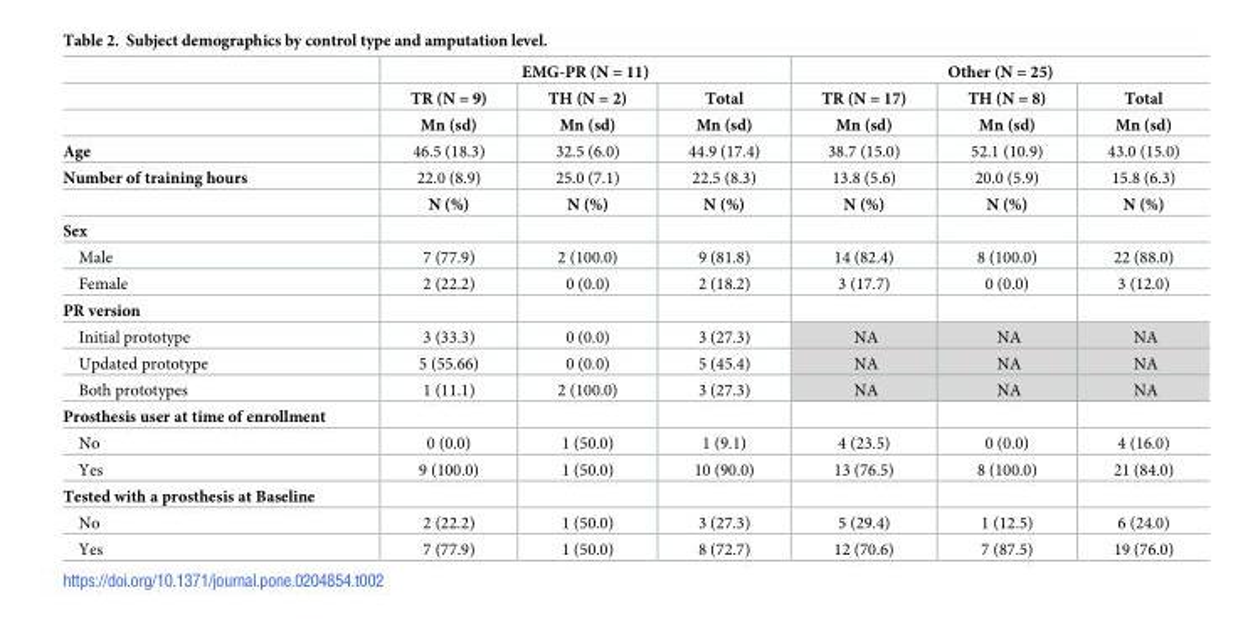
<table><thead><tr><td rowspan="3"></td><td colspan="3">EMG-PR (N = 11)</td><td colspan="3">Other (N = 25)</td></tr><tr><td rowspan="2">TR (N = 9) Mn (sd)</td><td rowspan="2">TH (N = 2) Mn (sd)</td><td rowspan="2">Total Mn (sd)</td><td rowspan="2">TR (N = 17) Mn (sd)</td><td rowspan="2">TH (N = 8) Mn (sd)</td><td rowspan="2">Total Mn (sd)</td></tr><tr></tr></thead><tbody><tr><td>Age</td><td>46.5 (18.3)</td><td>32.5 (6.0)</td><td>44.9 (17.4)</td><td>38.7 (15.0)</td><td>52.1 (10.9)</td><td>43.0 (15.0)</td></tr><tr><td rowspan="2">Number of training hours</td><td>22.0 (8.9)</td><td>25.0 (7.1)</td><td>22.5 (8.3)</td><td>13.8 (5.6)</td><td>20.0 (5.9)</td><td>15.8 (6.3)</td></tr><tr><td>N (%)</td><td>N (%)</td><td>N (%)</td><td>N (%)</td><td>N (%)</td><td>N (%)</td></tr><tr><td colspan="7">Sex</td></tr><tr><td>Male</td><td>7 (77.9)</td><td>2 (100.0)</td><td>9 (81.8)</td><td>14 (82.4)</td><td>8 (100.0)</td><td>22 (88.0)</td></tr><tr><td>Female</td><td>2 (22.2)</td><td>0 (0.0)</td><td>2 (18.2)</td><td>3 (17.7)</td><td>0 (0.0)</td><td>3 (12.0)</td></tr><tr><td colspan="7">PR version</td></tr><tr><td>Initial prototype</td><td>3 (33.3)</td><td>0 (0.0)</td><td>3 (27.3)</td><td>NA</td><td>NA</td><td>NA</td></tr><tr><td>Updated prototype</td><td>5 (55.66)</td><td>0 (0.0)</td><td>5 (45.4)</td><td>NA</td><td>NA</td><td>NA</td></tr><tr><td>Both prototypes</td><td>1 (11.1)</td><td>2 (100.0)</td><td>3 (27.3)</td><td>NA</td><td>NA</td><td>NA</td></tr><tr><td colspan="7">Prosthesis user at time of enrollment</td></tr><tr><td>No</td><td>0 (0.0)</td><td>1 (50.0)</td><td>1 (9.1)</td><td>4 (23.5)</td><td>0 (0.0)</td><td>4 (16.0)</td></tr><tr><td>Yes</td><td>9 (100.0)</td><td>1 (50.0)</td><td>10 (90.0)</td><td>13 (76.5)</td><td>8 (100.0)</td><td>21 (84.0)</td></tr><tr><td colspan="7">Tested with a prosthesis at Baseline</td></tr><tr><td>No</td><td>2 (22.2)</td><td>1 (50.0)</td><td>3 (27.3)</td><td>5 (29.4)</td><td>1 (12.5)</td><td>6 (24.0)</td></tr><tr><td>Yes</td><td>7 (77.9)</td><td>1 (50.0)</td><td>8 (72.7)</td><td>12 (70.6)</td><td>7 (87.5)</td><td>19 (76.0)</td></tr></tbody></table>